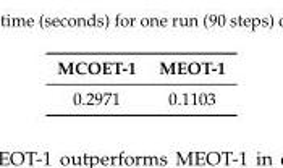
<table><thead><tr><td>MCOET-1</td><td>MEOT-1</td></tr></thead><tbody><tr><td>0.2971</td><td>0.1103</td></tr></tbody></table>